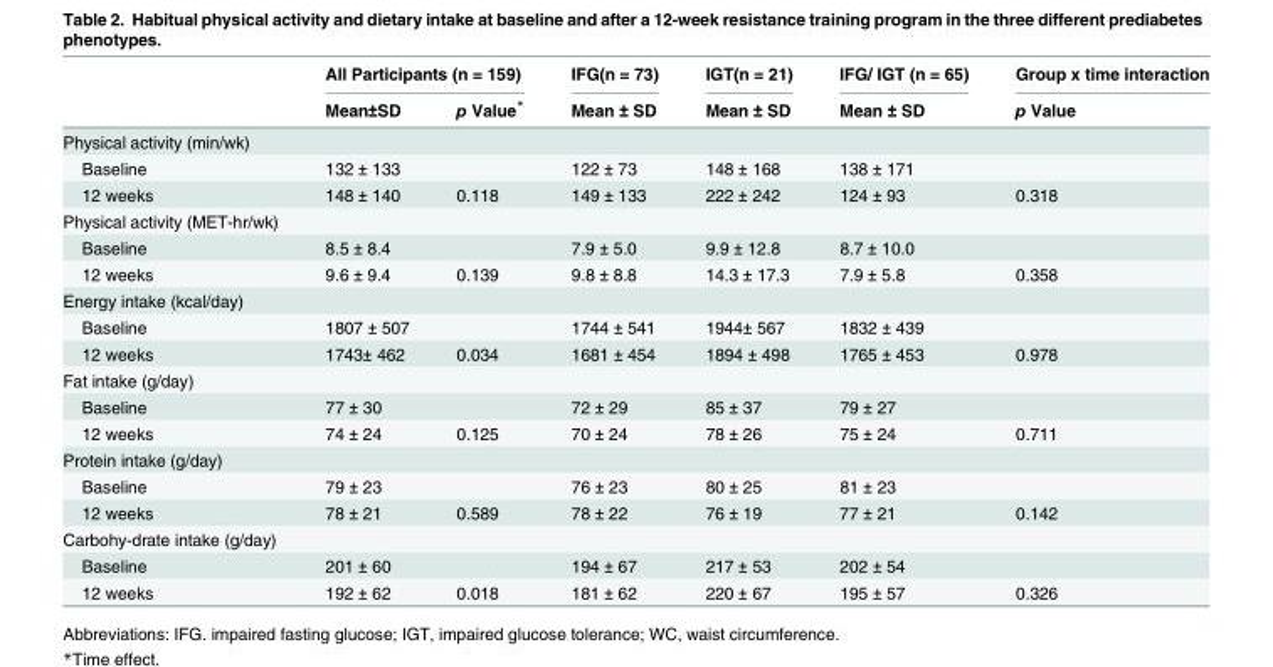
<table><thead><tr><td rowspan="2"></td><td colspan="2">All Participants (n = 159)</td><td rowspan="2">IFG(n = 73) Mean ± SD</td><td rowspan="2">IGT(n = 21) Mean ± SD</td><td rowspan="2">IFG/ IGT (n = 65) Mean ± SD</td><td rowspan="2">Group x time interaction p Value</td></tr><tr><td>Mean±SD</td><td>p Value*</td></tr></thead><tbody><tr><td colspan="7">Physical activity (min/wk)</td></tr><tr><td>Baseline</td><td>132 ± 133</td><td></td><td>122 ± 73</td><td>148 ± 168</td><td>138 ± 171</td><td></td></tr><tr><td>12 weeks</td><td>148 ± 140</td><td>0.118</td><td>149 ± 133</td><td>222 ± 242</td><td>124 ± 93</td><td>0.318</td></tr><tr><td colspan="7">Physical activity (MET-hr/wk)</td></tr><tr><td>Baseline</td><td>8.5 ± 8.4</td><td></td><td>7.9 ± 5.0</td><td>9.9 ± 12.8</td><td>8.7 ± 10.0</td><td></td></tr><tr><td>12 weeks</td><td>9.6 ± 9.4</td><td>0.139</td><td>9.8 ± 8.8</td><td>14.3 ± 17.3</td><td>7.9 ± 5.8</td><td>0.358</td></tr><tr><td colspan="7">Energy intake (kcal/day)</td></tr><tr><td>Baseline</td><td>1807 ± 507</td><td></td><td>1744 ± 541</td><td>1944± 567</td><td>1832 ± 439</td><td></td></tr><tr><td>12 weeks</td><td>1743± 462</td><td>0.034</td><td>1681 ± 454</td><td>1894 ± 498</td><td>1765 ± 453</td><td>0.978</td></tr><tr><td colspan="7">Fat intake (g/day)</td></tr><tr><td>Baseline</td><td>77 ± 30</td><td></td><td>72 ± 29</td><td>85 ± 37</td><td>79 ± 27</td><td></td></tr><tr><td>12 weeks</td><td>74 ± 24</td><td>0.125</td><td>70 ± 24</td><td>78 ± 26</td><td>75 ± 24</td><td>0.711</td></tr><tr><td colspan="7">Protein intake (g/day)</td></tr><tr><td>Baseline</td><td>79 ± 23</td><td></td><td>76 ± 23</td><td>80 ± 25</td><td>81 ± 23</td><td></td></tr><tr><td>12 weeks</td><td>78 ± 21</td><td>0.589</td><td>78 ± 22</td><td>76 ± 19</td><td>77 ± 21</td><td>0.142</td></tr><tr><td colspan="7">Carbohy-drate intake (g/day)</td></tr><tr><td>Baseline</td><td>201 ± 60</td><td></td><td>194 ± 67</td><td>217 ± 53</td><td>202 ± 54</td><td></td></tr><tr><td>12 weeks</td><td>192 ± 62</td><td>0.018</td><td>181 ± 62</td><td>220 ± 67</td><td>195 ± 57</td><td>0.326</td></tr></tbody></table>